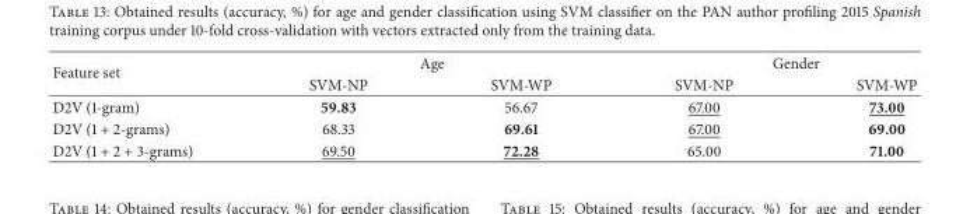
<table><thead><tr><td rowspan="2">Feature set</td><td colspan="2">Age</td><td colspan="2">Gender</td></tr><tr><td>SVM-NP</td><td>SVM-WP</td><td>SVM-NP</td><td>SVM-WP</td></tr></thead><tbody><tr><td>D2V (1-gram)</td><td>59.83</td><td>56.67</td><td>67.00</td><td>73.00</td></tr><tr><td>D2V (1 + 2-grams)</td><td>68.33</td><td>69.61</td><td>67.00</td><td>69.00</td></tr><tr><td>D2V (1 + 2 + 3-grams)</td><td>69.50</td><td>72.28</td><td>65.00</td><td>71.00</td></tr></tbody></table>